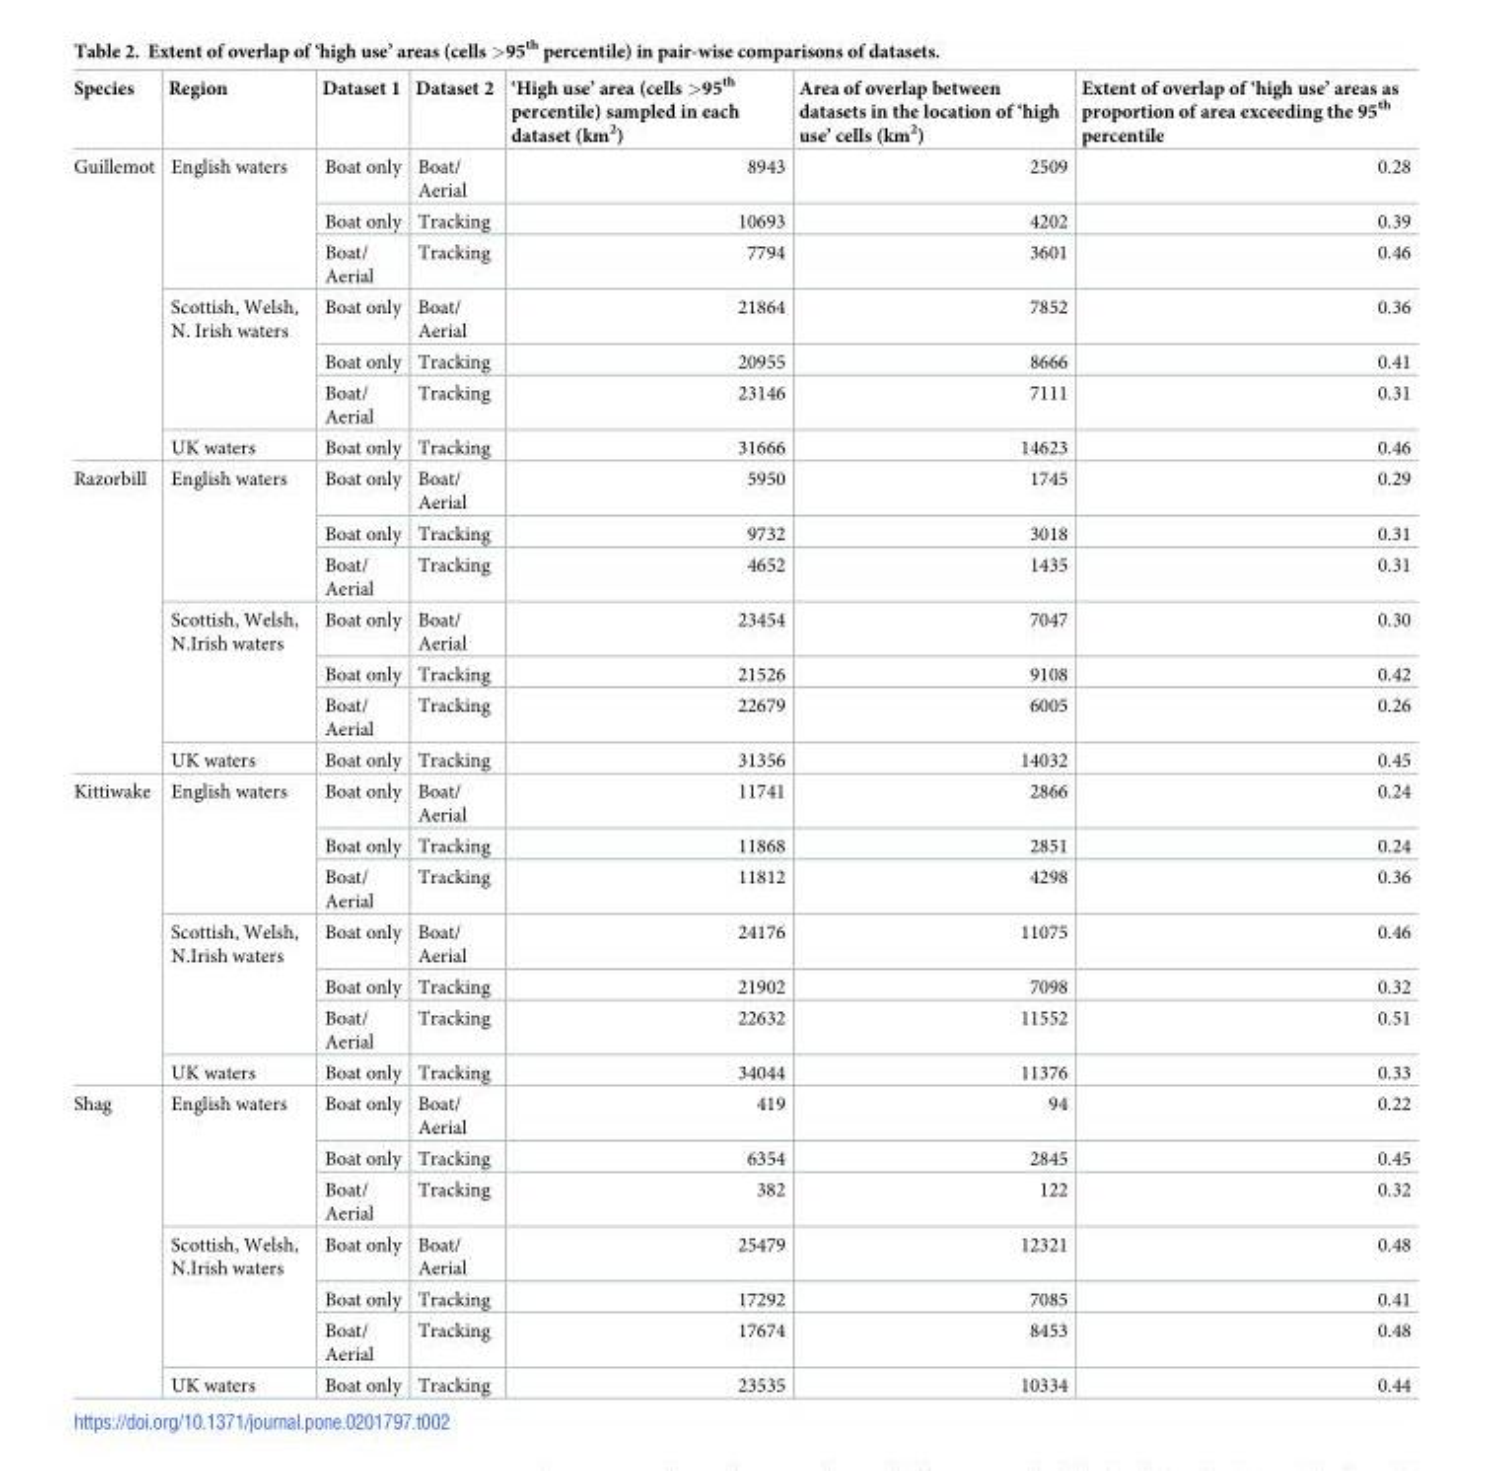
<table><thead><tr><td>Species</td><td>Region</td><td>Dataset 1</td><td>Dataset 2</td><td>‘High use’ area (cells &gt;95<sup>th</sup> percentile) sampled in each dataset (km<sup>2</sup>)</td><td>Area of overlap between datasets in the location of ‘high use’ cells (km<sup>2</sup>)</td><td>Extent of overlap of ‘high use’ areas as proportion of area exceeding the 95<sup>th</sup> percentile</td></tr></thead><tbody><tr><td rowspan="7">Guillemot</td><td rowspan="3">English waters</td><td>Boat only</td><td>Boat/ Aerial</td><td>8943</td><td>2509</td><td>0.28</td></tr><tr><td>Boat only</td><td>Tracking</td><td>10693</td><td>4202</td><td>0.39</td></tr><tr><td>Boat/ Aerial</td><td>Tracking</td><td>7794</td><td>3601</td><td>0.46</td></tr><tr><td rowspan="3">Scottish, Welsh, N. Irish waters</td><td>Boat only</td><td>Boat/ Aerial</td><td>21864</td><td>7852</td><td>0.36</td></tr><tr><td>Boat only</td><td>Tracking</td><td>20955</td><td>8666</td><td>0.41</td></tr><tr><td>Boat/ Aerial</td><td>Tracking</td><td>23146</td><td>7111</td><td>0.31</td></tr><tr><td>UK waters</td><td>Boat only</td><td>Tracking</td><td>31666</td><td>14623</td><td>0.46</td></tr><tr><td rowspan="7">Razorbill</td><td rowspan="3">English waters</td><td>Boat only</td><td>Boat/ Aerial</td><td>5950</td><td>1745</td><td>0.29</td></tr><tr><td>Boat only</td><td>Tracking</td><td>9732</td><td>3018</td><td>0.31</td></tr><tr><td>Boat/ Aerial</td><td>Tracking</td><td>4652</td><td>1435</td><td>0.31</td></tr><tr><td rowspan="3">Scottish, Welsh, N.Irish waters</td><td>Boat only</td><td>Boat/ Aerial</td><td>23454</td><td>7047</td><td>0.30</td></tr><tr><td>Boat only</td><td>Tracking</td><td>21526</td><td>9108</td><td>0.42</td></tr><tr><td>Boat/ Aerial</td><td>Tracking</td><td>22679</td><td>6005</td><td>0.26</td></tr><tr><td>UK waters</td><td>Boat only</td><td>Tracking</td><td>31356</td><td>14032</td><td>0.45</td></tr><tr><td rowspan="7">Kittiwake</td><td rowspan="3">English waters</td><td>Boat only</td><td>Boat/ Aerial</td><td>11741</td><td>2866</td><td>0.24</td></tr><tr><td>Boat only</td><td>Tracking</td><td>11868</td><td>2851</td><td>0.24</td></tr><tr><td>Boat/ Aerial</td><td>Tracking</td><td>11812</td><td>4298</td><td>0.36</td></tr><tr><td rowspan="3">Scottish, Welsh, N.Irish waters</td><td>Boat only</td><td>Boat/ Aerial</td><td>24176</td><td>11075</td><td>0.46</td></tr><tr><td>Boat only</td><td>Tracking</td><td>21902</td><td>7098</td><td>0.32</td></tr><tr><td>Boat/ Aerial</td><td>Tracking</td><td>22632</td><td>11552</td><td>0.51</td></tr><tr><td>UK waters</td><td>Boat only</td><td>Tracking</td><td>34044</td><td>11376</td><td>0.33</td></tr><tr><td rowspan="7">Shag</td><td rowspan="3">English waters</td><td>Boat only</td><td>Boat/ Aerial</td><td>419</td><td>94</td><td>0.22</td></tr><tr><td>Boat only</td><td>Tracking</td><td>6354</td><td>2845</td><td>0.45</td></tr><tr><td>Boat/ Aerial</td><td>Tracking</td><td>382</td><td>122</td><td>0.32</td></tr><tr><td rowspan="3">Scottish, Welsh, N.Irish waters</td><td>Boat only</td><td>Boat/ Aerial</td><td>25479</td><td>12321</td><td>0.48</td></tr><tr><td>Boat only</td><td>Tracking</td><td>17292</td><td>7085</td><td>0.41</td></tr><tr><td>Boat/ Aerial</td><td>Tracking</td><td>17674</td><td>8453</td><td>0.48</td></tr><tr><td>UK waters</td><td>Boat only</td><td>Tracking</td><td>23535</td><td>10334</td><td>0.44</td></tr></tbody></table>